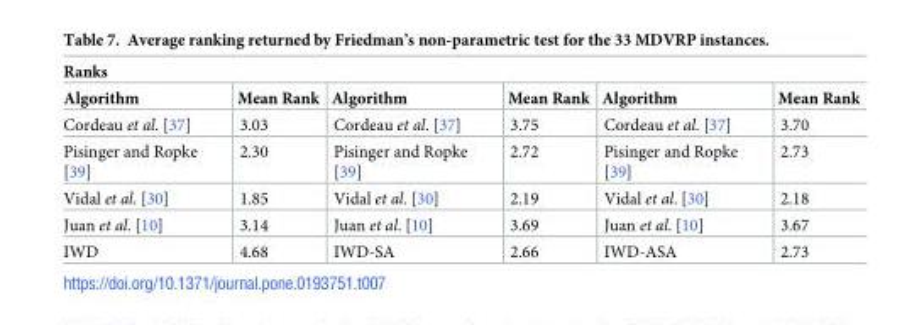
<table><thead><tr><td colspan="6">Ranks</td></tr><tr><td>Algorithm</td><td>Mean Rank</td><td>Algorithm</td><td>Mean Rank</td><td>Algorithm</td><td>Mean Rank</td></tr></thead><tbody><tr><td>Cordeau et al. [37]</td><td>3.03</td><td>Cordeau et al. [37]</td><td>3.75</td><td>Cordeau et al. [37]</td><td>3.70</td></tr><tr><td>Pisinger and Ropke [39]</td><td>2.30</td><td>Pisinger and Ropke [39]</td><td>2.72</td><td>Pisinger and Ropke [39]</td><td>2.73</td></tr><tr><td>Vidal et al. [30]</td><td>1.85</td><td>Vidal et al. [30]</td><td>2.19</td><td>Vidal et al. [30]</td><td>2.18</td></tr><tr><td>Juan et al. [10]</td><td>3.14</td><td>Juan et al. [10]</td><td>3.69</td><td>Juan et al. [10]</td><td>3.67</td></tr><tr><td>IWD</td><td>4.68</td><td>IWD-SA</td><td>2.66</td><td>IWD-ASA</td><td>2.73</td></tr></tbody></table>